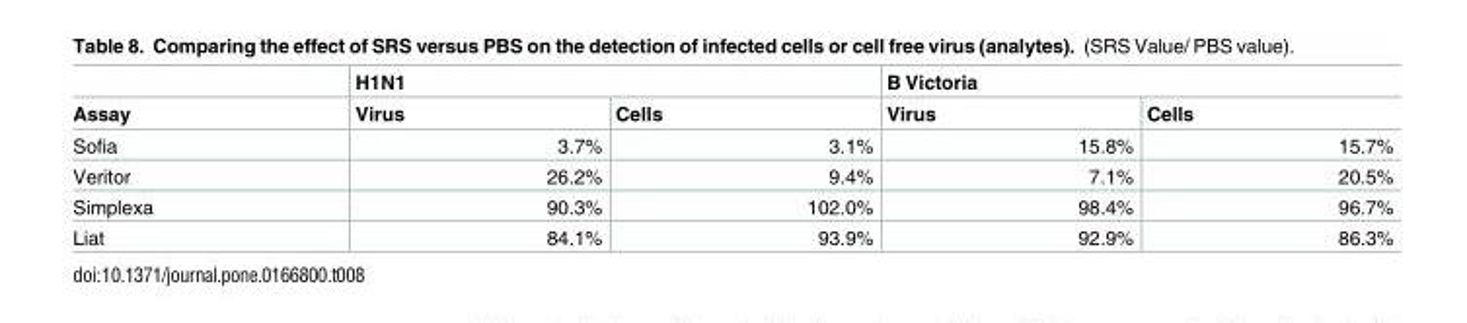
<table><thead><tr><td rowspan="2">Assay</td><td colspan="2">H1N1</td><td colspan="2">B Victoria</td></tr><tr><td>Virus</td><td>Cells</td><td>Virus</td><td>Cells</td></tr></thead><tbody><tr><td>Sofia</td><td>3.7%</td><td>3.1%</td><td>15.8%</td><td>15.7%</td></tr><tr><td>Veritor</td><td>26.2%</td><td>9.4%</td><td>7.1%</td><td>20.5%</td></tr><tr><td>Simplexa</td><td>90.3%</td><td>102.0%</td><td>98.4%</td><td>96.7%</td></tr><tr><td>Liat</td><td>84.1%</td><td>93.9%</td><td>92.9%</td><td>86.3%</td></tr></tbody></table>